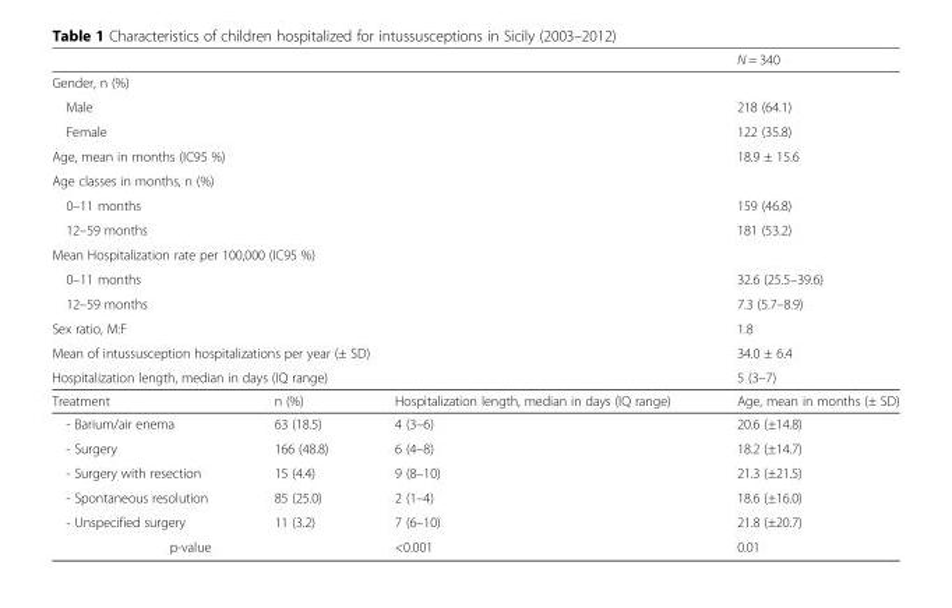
<table><thead><tr><td></td><td></td><td></td><td>N = 340</td></tr></thead><tbody><tr><td colspan="4">Gender, n (%)</td></tr><tr><td colspan="3">Male</td><td>218 (64.1)</td></tr><tr><td colspan="3">Female</td><td>122 (35.8)</td></tr><tr><td colspan="3">Age, mean in months (IC95 %)</td><td>18.9 ± 15.6</td></tr><tr><td colspan="4">Age classes in months, n (%)</td></tr><tr><td colspan="3">0–11 months</td><td>159 (46.8)</td></tr><tr><td colspan="3">12–59 months</td><td>181 (53.2)</td></tr><tr><td colspan="4">Mean Hospitalization rate per 100,000 (IC95 %)</td></tr><tr><td colspan="3">0–11 months</td><td>32.6 (25.5–39.6)</td></tr><tr><td colspan="3">12–59 months</td><td>7.3 (5.7–8.9)</td></tr><tr><td colspan="3">Sex ratio, M:F</td><td>1.8</td></tr><tr><td colspan="3">Mean of intussusception hospitalizations per year (± SD)</td><td>34.0 ± 6.4</td></tr><tr><td colspan="3">Hospitalization length, median in days (IQ range)</td><td>5 (3–7)</td></tr><tr><td>Treatment</td><td>n (%)</td><td>Hospitalization length, median in days (IQ range)</td><td>Age, mean in months (± SD)</td></tr><tr><td>- Barium/air enema</td><td>63 (18.5)</td><td>4 (3–6)</td><td>20.6 (±14.8)</td></tr><tr><td>- Surgery</td><td>166 (48.8)</td><td>6 (4–8)</td><td>18.2 (±14.7)</td></tr><tr><td>- Surgery with resection</td><td>15 (4.4)</td><td>9 (8–10)</td><td>21.3 (±21.5)</td></tr><tr><td>- Spontaneous resolution</td><td>85 (25.0)</td><td>2 (1–4)</td><td>18.6 (±16.0)</td></tr><tr><td>- Unspecified surgery</td><td>11 (3.2)</td><td>7 (6–10)</td><td>21.8 (±20.7)</td></tr><tr><td colspan="2">p-value</td><td>&lt;0.001</td><td>0.01</td></tr></tbody></table>